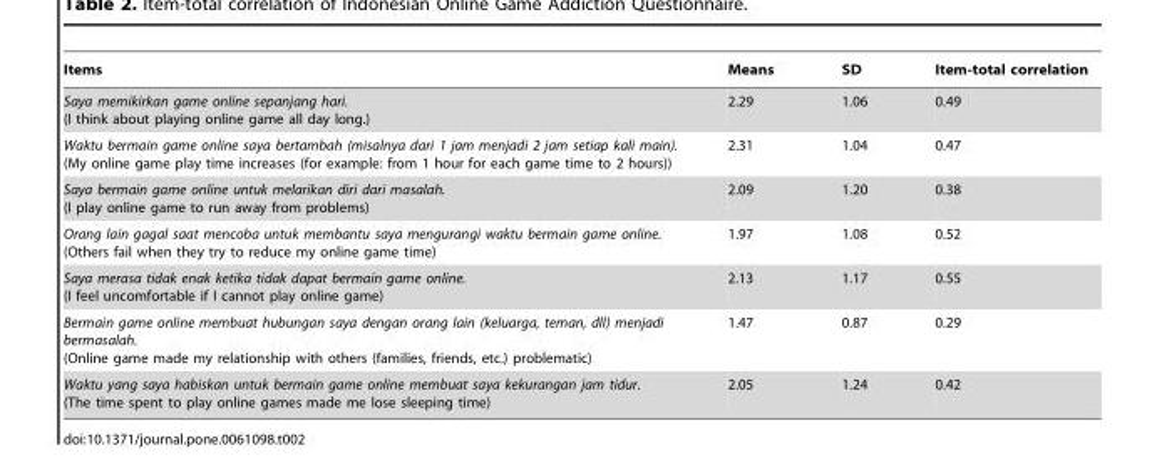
<table><thead><tr><td>Items</td><td>Means</td><td>SD</td><td>Item-total correlation</td></tr></thead><tbody><tr><td>Saya memikirkan game online sepanjang hari. (I think about playing online game all day long.)</td><td>2.29</td><td>1.06</td><td>0.49</td></tr><tr><td>Waktu bermain game online saya bertambah (misalnya dari 1 jam menjadi 2 jam setiap kali main). (My online game play time increases (for example: from 1 hour for each game time to 2 hours))</td><td>2.31</td><td>1.04</td><td>0.47</td></tr><tr><td>Saya bermain game online untuk melarikan diri dari masalah. (I play online game to run away from problems)</td><td>2.09</td><td>1.20</td><td>0.38</td></tr><tr><td>Orang lain gagal saat mencoba untuk membantu saya mengurangi waktu bermain game online. (Others fail when they try to reduce my online game time)</td><td>1.97</td><td>1.08</td><td>0.52</td></tr><tr><td>Saya merasa tidak enak ketika tidak dapat bermain game online. (I feel uncomfortable if I cannot play online game)</td><td>2.13</td><td>1.17</td><td>0.55</td></tr><tr><td>Bermain game online membuat hubungan saya dengan orang lain (keluarga, teman, dll) menjadi bermasalah. (Online game made my relationship with others (families, friends, etc.) problematic)</td><td>1.47</td><td>0.87</td><td>0.29</td></tr><tr><td>Waktu yang saya habiskan untuk bermain game online membuat saya kekurangan jam tidur. (The time spent to play online games made me lose sleeping time)</td><td>2.05</td><td>1.24</td><td>0.42</td></tr></tbody></table>